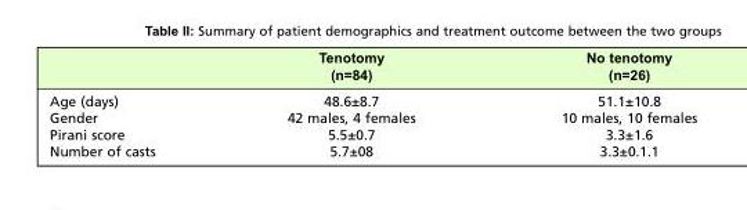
<table><thead><tr><td></td><td>Tenotomy (n=84)</td><td>No tenotomy (n=26)</td></tr></thead><tbody><tr><td>Age (days)</td><td>48.6±8.7</td><td>51.1±10.8</td></tr><tr><td>Gender</td><td>42 males, 4 females</td><td>10 males, 10 females</td></tr><tr><td>Pirani score</td><td>5.5±0.7</td><td>3.3±1.6</td></tr><tr><td>Number of casts</td><td>5.7±08</td><td>3.3±0.1.1</td></tr></tbody></table>